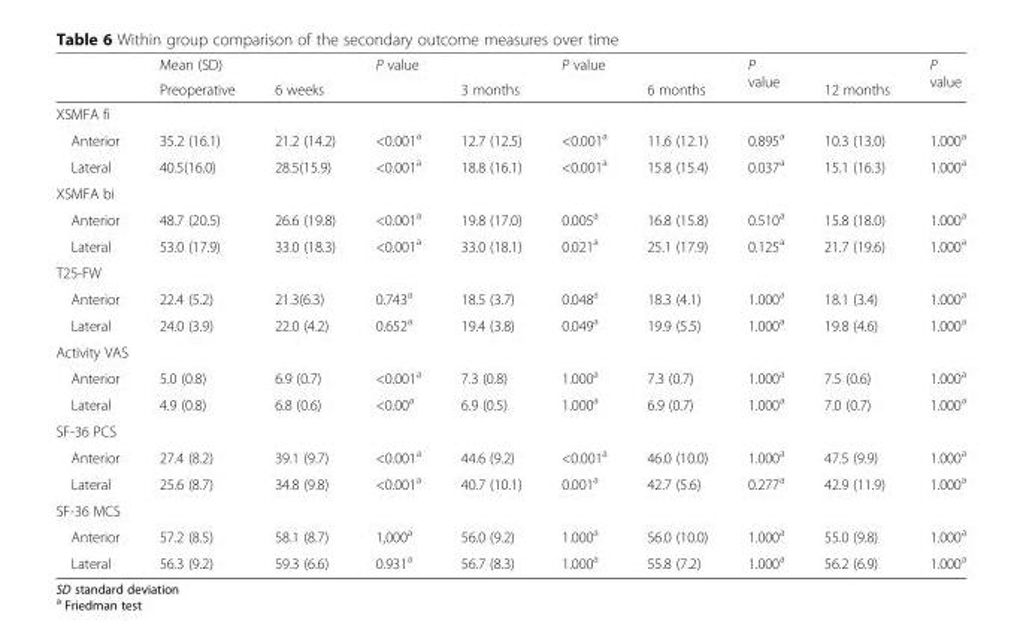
<table><thead><tr><td rowspan="2"></td><td rowspan="2">Mean (SD) Preoperative</td><td rowspan="2">6 weeks</td><td rowspan="2">P value</td><td rowspan="2">3 months</td><td rowspan="2">P value</td><td rowspan="2">6 months</td><td rowspan="2">P value</td><td rowspan="2">12 months</td><td rowspan="2">P value</td></tr><tr></tr></thead><tbody><tr><td colspan="10">XSMFA fi</td></tr><tr><td>Anterior</td><td>35.2 (16.1)</td><td>21.2 (14.2)</td><td>&lt;0.001<sup>a</sup></td><td>12.7 (12.5)</td><td>&lt;0.001<sup>a</sup></td><td>11.6 (12.1)</td><td>0.895<sup>a</sup></td><td>10.3 (13.0)</td><td>1.000<sup>a</sup></td></tr><tr><td>Lateral</td><td>40.5(16.0)</td><td>28.5(15.9)</td><td>&lt;0.001<sup>a</sup></td><td>18.8 (16.1)</td><td>&lt;0.001<sup>a</sup></td><td>15.8 (15.4)</td><td>0.037<sup>a</sup></td><td>15.1 (16.3)</td><td>1.000<sup>a</sup></td></tr><tr><td colspan="10">XSMFA bi</td></tr><tr><td>Anterior</td><td>48.7 (20.5)</td><td>26.6 (19.8)</td><td>&lt;0.001<sup>a</sup></td><td>19.8 (17.0)</td><td>0.005<sup>a</sup></td><td>16.8 (15.8)</td><td>0.510<sup>a</sup></td><td>15.8 (18.0)</td><td>1.000<sup>a</sup></td></tr><tr><td>Lateral</td><td>53.0 (17.9)</td><td>33.0 (18.3)</td><td>&lt;0.001<sup>a</sup></td><td>33.0 (18.1)</td><td>0.021<sup>a</sup></td><td>25.1 (17.9)</td><td>0.125<sup>a</sup></td><td>21.7 (19.6)</td><td>1.000<sup>a</sup></td></tr><tr><td colspan="10">T25-FW</td></tr><tr><td>Anterior</td><td>22.4 (5.2)</td><td>21.3(6.3)</td><td>0.743<sup>a</sup></td><td>18.5 (3.7)</td><td>0.048<sup>a</sup></td><td>18.3 (4.1)</td><td>1.000<sup>a</sup></td><td>18.1 (3.4)</td><td>1.000<sup>a</sup></td></tr><tr><td>Lateral</td><td>24.0 (3.9)</td><td>22.0 (4.2)</td><td>0.652<sup>a</sup></td><td>19.4 (3.8)</td><td>0.049<sup>a</sup></td><td>19.9 (5.5)</td><td>1.000<sup>a</sup></td><td>19.8 (4.6)</td><td>1.000<sup>a</sup></td></tr><tr><td colspan="10">Activity VAS</td></tr><tr><td>Anterior</td><td>5.0 (0.8)</td><td>6.9 (0.7)</td><td>&lt;0.001<sup>a</sup></td><td>7.3 (0.8)</td><td>1.000<sup>a</sup></td><td>7.3 (0.7)</td><td>1.000<sup>a</sup></td><td>7.5 (0.6)</td><td>1.000<sup>a</sup></td></tr><tr><td>Lateral</td><td>4.9 (0.8)</td><td>6.8 (0.6)</td><td>&lt;0.00<sup>a</sup></td><td>6.9 (0.5)</td><td>1.000<sup>a</sup></td><td>6.9 (0.7)</td><td>1.000<sup>a</sup></td><td>7.0 (0.7)</td><td>1.000<sup>a</sup></td></tr><tr><td colspan="10">SF-36 PCS</td></tr><tr><td>Anterior</td><td>27.4 (8.2)</td><td>39.1 (9.7)</td><td>&lt;0.001<sup>a</sup></td><td>44.6 (9.2)</td><td>&lt;0.001<sup>a</sup></td><td>46.0 (10.0)</td><td>1.000<sup>a</sup></td><td>47.5 (9.9)</td><td>1.000<sup>a</sup></td></tr><tr><td>Lateral</td><td>25.6 (8.7)</td><td>34.8 (9.8)</td><td>&lt;0.001<sup>a</sup></td><td>40.7 (10.1)</td><td>0.001<sup>a</sup></td><td>42.7 (5.6)</td><td>0.277<sup>a</sup></td><td>42.9 (11.9)</td><td>1.000<sup>a</sup></td></tr><tr><td colspan="10">SF-36 MCS</td></tr><tr><td>Anterior</td><td>57.2 (8.5)</td><td>58.1 (8.7)</td><td>1,000<sup>a</sup></td><td>56.0 (9.2)</td><td>1.000<sup>a</sup></td><td>56.0 (10.0)</td><td>1.000<sup>a</sup></td><td>55.0 (9.8)</td><td>1.000<sup>a</sup></td></tr><tr><td>Lateral</td><td>56.3 (9.2)</td><td>59.3 (6.6)</td><td>0.931<sup>a</sup></td><td>56.7 (8.3)</td><td>1.000<sup>a</sup></td><td>55.8 (7.2)</td><td>1.000<sup>a</sup></td><td>56.2 (6.9)</td><td>1.000<sup>a</sup></td></tr></tbody></table>